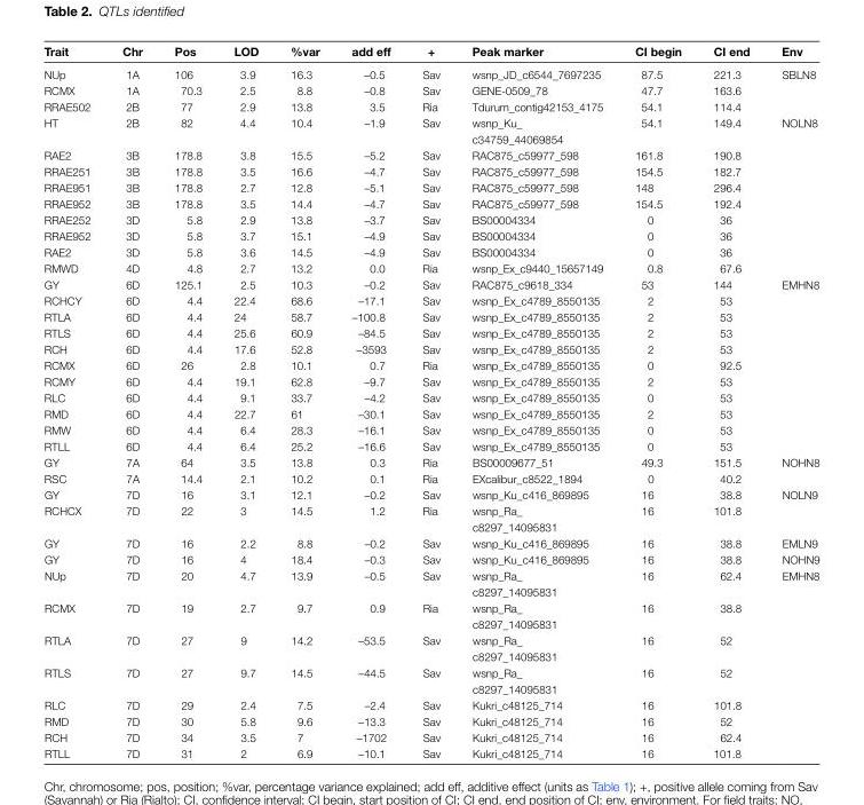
<table><thead><tr><td>Trait</td><td>Chr</td><td>Pos</td><td>LOD</td><td>%var</td><td>add eff</td><td>+</td><td>Peak marker</td><td>CI begin</td><td>CI end</td><td>Env</td></tr></thead><tbody><tr><td>NUp</td><td>1A</td><td>106</td><td>3.9</td><td>16.3</td><td>–0.5</td><td>Sav</td><td>wsnp_JD_c6544_7697235</td><td>87.5</td><td>221.3</td><td>SBLN8</td></tr><tr><td>RCMX</td><td>1A</td><td>70.3</td><td>2.5</td><td>8.8</td><td>–0.8</td><td>Sav</td><td>GENE-0509_78</td><td>47.7</td><td>163.6</td><td></td></tr><tr><td>RRAE502</td><td>2B</td><td>77</td><td>2.9</td><td>13.8</td><td>3.5</td><td>Ria</td><td>Tdurum_contig42153_4175</td><td>54.1</td><td>114.4</td><td></td></tr><tr><td>HT</td><td>2B</td><td>82</td><td>4.4</td><td>10.4</td><td>–1.9</td><td>Sav</td><td>wsnp_Ku_ c34759_44069854</td><td>54.1</td><td>149.4</td><td>NOLN8</td></tr><tr><td>RAE2</td><td>3B</td><td>178.8</td><td>3.8</td><td>15.5</td><td>–5.2</td><td>Sav</td><td>RAC875_c59977_598</td><td>161.8</td><td>190.8</td><td></td></tr><tr><td>RRAE251</td><td>3B</td><td>178.8</td><td>3.5</td><td>16.6</td><td>–4.7</td><td>Sav</td><td>RAC875_c59977_598</td><td>154.5</td><td>182.7</td><td></td></tr><tr><td>RRAE951</td><td>3B</td><td>178.8</td><td>2.7</td><td>12.8</td><td>–5.1</td><td>Sav</td><td>RAC875_c59977_598</td><td>148</td><td>296.4</td><td></td></tr><tr><td>RRAE952</td><td>3B</td><td>178.8</td><td>3.5</td><td>14.4</td><td>–4.7</td><td>Sav</td><td>RAC875_c59977_598</td><td>154.5</td><td>192.4</td><td></td></tr><tr><td>RRAE252</td><td>3D</td><td>5.8</td><td>2.9</td><td>13.8</td><td>–3.7</td><td>Sav</td><td>BS00004334</td><td>0</td><td>36</td><td></td></tr><tr><td>RRAE952</td><td>3D</td><td>5.8</td><td>3.7</td><td>15.1</td><td>–4.9</td><td>Sav</td><td>BS00004334</td><td>0</td><td>36</td><td></td></tr><tr><td>RAE2</td><td>3D</td><td>5.8</td><td>3.6</td><td>14.5</td><td>–4.9</td><td>Sav</td><td>BS00004334</td><td>0</td><td>36</td><td></td></tr><tr><td>RMWD</td><td>4D</td><td>4.8</td><td>2.7</td><td>13.2</td><td>0.0</td><td>Ria</td><td>wsnp_Ex_c9440_15657149</td><td>0.8</td><td>67.6</td><td></td></tr><tr><td>GY</td><td>6D</td><td>125.1</td><td>2.5</td><td>10.3</td><td>–0.2</td><td>Sav</td><td>RAC875_c9618_334</td><td>53</td><td>144</td><td>EMHN8</td></tr><tr><td>RCHCY</td><td>6D</td><td>4.4</td><td>22.4</td><td>68.6</td><td>–17.1</td><td>Sav</td><td>wsnp_Ex_c4789_8550135</td><td>2</td><td>53</td><td></td></tr><tr><td>RTLA</td><td>6D</td><td>4.4</td><td>24</td><td>58.7</td><td>–100.8</td><td>Sav</td><td>wsnp_Ex_c4789_8550135</td><td>2</td><td>53</td><td></td></tr><tr><td>RTLS</td><td>6D</td><td>4.4</td><td>25.6</td><td>60.9</td><td>–84.5</td><td>Sav</td><td>wsnp_Ex_c4789_8550135</td><td>2</td><td>53</td><td></td></tr><tr><td>RCH</td><td>6D</td><td>4.4</td><td>17.6</td><td>52.8</td><td>–3593</td><td>Sav</td><td>wsnp_Ex_c4789_8550135</td><td>2</td><td>53</td><td></td></tr><tr><td>RCMX</td><td>6D</td><td>26</td><td>2.8</td><td>10.1</td><td>0.7</td><td>Ria</td><td>wsnp_Ex_c4789_8550135</td><td>0</td><td>92.5</td><td></td></tr><tr><td>RCMY</td><td>6D</td><td>4.4</td><td>19.1</td><td>62.8</td><td>–9.7</td><td>Sav</td><td>wsnp_Ex_c4789_8550135</td><td>2</td><td>53</td><td></td></tr><tr><td>RLC</td><td>6D</td><td>4.4</td><td>9.1</td><td>33.7</td><td>–4.2</td><td>Sav</td><td>wsnp_Ex_c4789_8550135</td><td>0</td><td>53</td><td></td></tr><tr><td>RMD</td><td>6D</td><td>4.4</td><td>22.7</td><td>61</td><td>–30.1</td><td>Sav</td><td>wsnp_Ex_c4789_8550135</td><td>2</td><td>53</td><td></td></tr><tr><td>RMW</td><td>6D</td><td>4.4</td><td>6.4</td><td>28.3</td><td>–16.1</td><td>Sav</td><td>wsnp_Ex_c4789_8550135</td><td>0</td><td>53</td><td></td></tr><tr><td>RTLL</td><td>6D</td><td>4.4</td><td>6.4</td><td>25.2</td><td>–16.6</td><td>Sav</td><td>wsnp_Ex_c4789_8550135</td><td>0</td><td>53</td><td></td></tr><tr><td>GY</td><td>7A</td><td>64</td><td>3.5</td><td>13.8</td><td>0.3</td><td>Ria</td><td>BS00009677_51</td><td>49.3</td><td>151.5</td><td>NOHN8</td></tr><tr><td>RSC</td><td>7A</td><td>14.4</td><td>2.1</td><td>10.2</td><td>0.1</td><td>Ria</td><td>EXcalibur_c8522_1894</td><td>0</td><td>40.2</td><td></td></tr><tr><td>GY</td><td>7D</td><td>16</td><td>3.1</td><td>12.1</td><td>–0.2</td><td>Sav</td><td>wsnp_Ku_c416_869895</td><td>16</td><td>38.8</td><td>NOLN9</td></tr><tr><td>RCHCX</td><td>7D</td><td>22</td><td>3</td><td>14.5</td><td>1.2</td><td>Ria</td><td>wsnp_Ra_ c8297_14095831</td><td>16</td><td>101.8</td><td></td></tr><tr><td>GY</td><td>7D</td><td>16</td><td>2.2</td><td>8.8</td><td>–0.2</td><td>Sav</td><td>wsnp_Ku_c416_869895</td><td>16</td><td>38.8</td><td>EMLN9</td></tr><tr><td>GY</td><td>7D</td><td>16</td><td>4</td><td>18.4</td><td>–0.3</td><td>Sav</td><td>wsnp_Ku_c416_869895</td><td>16</td><td>38.8</td><td>NOHN9</td></tr><tr><td>NUp</td><td>7D</td><td>20</td><td>4.7</td><td>13.9</td><td>–0.5</td><td>Sav</td><td>wsnp_Ra_ c8297_14095831</td><td>16</td><td>62.4</td><td>EMHN8</td></tr><tr><td>RCMX</td><td>7D</td><td>19</td><td>2.7</td><td>9.7</td><td>0.9</td><td>Ria</td><td>wsnp_Ra_ c8297_14095831</td><td>16</td><td>38.8</td><td></td></tr><tr><td>RTLA</td><td>7D</td><td>27</td><td>9</td><td>14.2</td><td>–53.5</td><td>Sav</td><td>wsnp_Ra_ c8297_14095831</td><td>16</td><td>52</td><td></td></tr><tr><td>RTLS</td><td>7D</td><td>27</td><td>9.7</td><td>14.5</td><td>–44.5</td><td>Sav</td><td>wsnp_Ra_ c8297_14095831</td><td>16</td><td>52</td><td></td></tr><tr><td>RLC</td><td>7D</td><td>29</td><td>2.4</td><td>7.5</td><td>–2.4</td><td>Sav</td><td>Kukri_c48125_714</td><td>16</td><td>101.8</td><td></td></tr><tr><td>RMD</td><td>7D</td><td>30</td><td>5.8</td><td>9.6</td><td>–13.3</td><td>Sav</td><td>Kukri_c48125_714</td><td>16</td><td>52</td><td></td></tr><tr><td>RCH</td><td>7D</td><td>34</td><td>3.5</td><td>7</td><td>–1702</td><td>Sav</td><td>Kukri_c48125_714</td><td>16</td><td>62.4</td><td></td></tr><tr><td>RTLL</td><td>7D</td><td>31</td><td>2</td><td>6.9</td><td>–10.1</td><td>Sav</td><td>Kukri_c48125_714</td><td>16</td><td>101.8</td><td></td></tr></tbody></table>